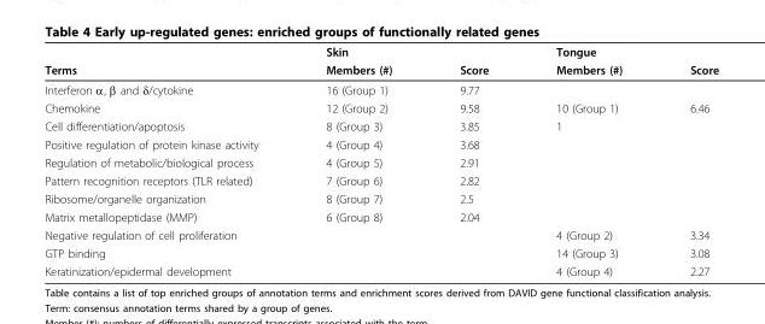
<table><thead><tr><td rowspan="2">Terms</td><td rowspan="2">Skin Members (#)</td><td rowspan="2">Score</td><td rowspan="2">Tongue Members (#)</td><td rowspan="2">Score</td></tr><tr></tr></thead><tbody><tr><td>Interferon α, β and δ/cytokine</td><td>16 (Group 1)</td><td>9.77</td><td></td><td></td></tr><tr><td>Chemokine</td><td>12 (Group 2)</td><td>9.58</td><td>10 (Group 1)</td><td>6.46</td></tr><tr><td>Cell differentiation/apoptosis</td><td>8 (Group 3)</td><td>3.85</td><td>1</td><td></td></tr><tr><td>Positive regulation of protein kinase activity</td><td>4 (Group 4)</td><td>3.68</td><td></td><td></td></tr><tr><td>Regulation of metabolic/biological process</td><td>4 (Group 5)</td><td>2.91</td><td></td><td></td></tr><tr><td>Pattern recognition receptors (TLR related)</td><td>7 (Group 6)</td><td>2.82</td><td></td><td></td></tr><tr><td>Ribosome/organelle organization</td><td>8 (Group 7)</td><td>2.5</td><td></td><td></td></tr><tr><td>Matrix metallopeptidase (MMP)</td><td>6 (Group 8)</td><td>2.04</td><td></td><td></td></tr><tr><td>Negative regulation of cell proliferation</td><td></td><td></td><td>4 (Group 2)</td><td>3.34</td></tr><tr><td>GTP binding</td><td></td><td></td><td>14 (Group 3)</td><td>3.08</td></tr><tr><td>Keratinization/epidermal development</td><td></td><td></td><td>4 (Group 4)</td><td>2.27</td></tr></tbody></table>